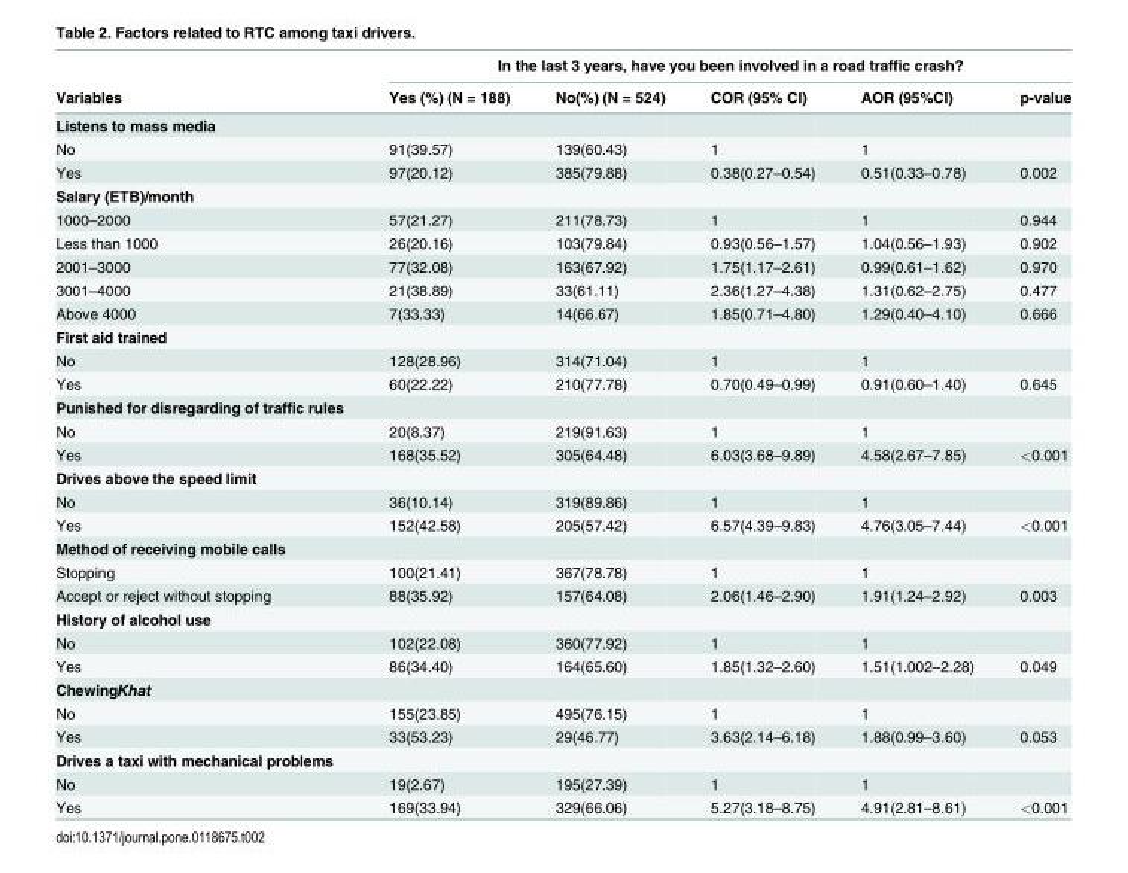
<table><thead><tr><td rowspan="2">Variables</td><td colspan="5">In the last 3 years, have you been involved in a road traffic crash?</td></tr><tr><td>Yes (%) (N = 188)</td><td>No(%) (N = 524)</td><td>COR (95% CI)</td><td>AOR (95%CI)</td><td>p-value</td></tr></thead><tbody><tr><td colspan="6">Listens to mass media</td></tr><tr><td>No</td><td>91(39.57)</td><td>139(60.43)</td><td>1</td><td>1</td><td></td></tr><tr><td>Yes</td><td>97(20.12)</td><td>385(79.88)</td><td>0.38(0.27–0.54)</td><td>0.51(0.33–0.78)</td><td>0.002</td></tr><tr><td colspan="6">Salary (ETB)/month</td></tr><tr><td>1000–2000</td><td>57(21.27)</td><td>211(78.73)</td><td>1</td><td>1</td><td>0.944</td></tr><tr><td>Less than 1000</td><td>26(20.16)</td><td>103(79.84)</td><td>0.93(0.56–1.57)</td><td>1.04(0.56–1.93)</td><td>0.902</td></tr><tr><td>2001–3000</td><td>77(32.08)</td><td>163(67.92)</td><td>1.75(1.17–2.61)</td><td>0.99(0.61–1.62)</td><td>0.970</td></tr><tr><td>3001–4000</td><td>21(38.89)</td><td>33(61.11)</td><td>2.36(1.27–4.38)</td><td>1.31(0.62–2.75)</td><td>0.477</td></tr><tr><td>Above 4000</td><td>7(33.33)</td><td>14(66.67)</td><td>1.85(0.71–4.80)</td><td>1.29(0.40–4.10)</td><td>0.666</td></tr><tr><td colspan="6">First aid trained</td></tr><tr><td>No</td><td>128(28.96)</td><td>314(71.04)</td><td>1</td><td>1</td><td></td></tr><tr><td>Yes</td><td>60(22.22)</td><td>210(77.78)</td><td>0.70(0.49–0.99)</td><td>0.91(0.60–1.40)</td><td>0.645</td></tr><tr><td colspan="6">Punished for disregarding of traffic rules</td></tr><tr><td>No</td><td>20(8.37)</td><td>219(91.63)</td><td>1</td><td>1</td><td></td></tr><tr><td>Yes</td><td>168(35.52)</td><td>305(64.48)</td><td>6.03(3.68–9.89)</td><td>4.58(2.67–7.85)</td><td>&lt;0.001</td></tr><tr><td colspan="6">Drives above the speed limit</td></tr><tr><td>No</td><td>36(10.14)</td><td>319(89.86)</td><td>1</td><td>1</td><td></td></tr><tr><td>Yes</td><td>152(42.58)</td><td>205(57.42)</td><td>6.57(4.39–9.83)</td><td>4.76(3.05–7.44)</td><td>&lt;0.001</td></tr><tr><td colspan="6">Method of receiving mobile calls</td></tr><tr><td>Stopping</td><td>100(21.41)</td><td>367(78.78)</td><td>1</td><td>1</td><td></td></tr><tr><td>Accept or reject without stopping</td><td>88(35.92)</td><td>157(64.08)</td><td>2.06(1.46–2.90)</td><td>1.91(1.24–2.92)</td><td>0.003</td></tr><tr><td colspan="6">History of alcohol use</td></tr><tr><td>No</td><td>102(22.08)</td><td>360(77.92)</td><td>1</td><td>1</td><td></td></tr><tr><td>Yes</td><td>86(34.40)</td><td>164(65.60)</td><td>1.85(1.32–2.60)</td><td>1.51(1.002–2.28)</td><td>0.049</td></tr><tr><td colspan="6">ChewingKhat</td></tr><tr><td>No</td><td>155(23.85)</td><td>495(76.15)</td><td>1</td><td>1</td><td></td></tr><tr><td>Yes</td><td>33(53.23)</td><td>29(46.77)</td><td>3.63(2.14–6.18)</td><td>1.88(0.99–3.60)</td><td>0.053</td></tr><tr><td colspan="6">Drives a taxi with mechanical problems</td></tr><tr><td>No</td><td>19(2.67)</td><td>195(27.39)</td><td>1</td><td>1</td><td></td></tr><tr><td>Yes</td><td>169(33.94)</td><td>329(66.06)</td><td>5.27(3.18–8.75)</td><td>4.91(2.81–8.61)</td><td>&lt;0.001</td></tr></tbody></table>